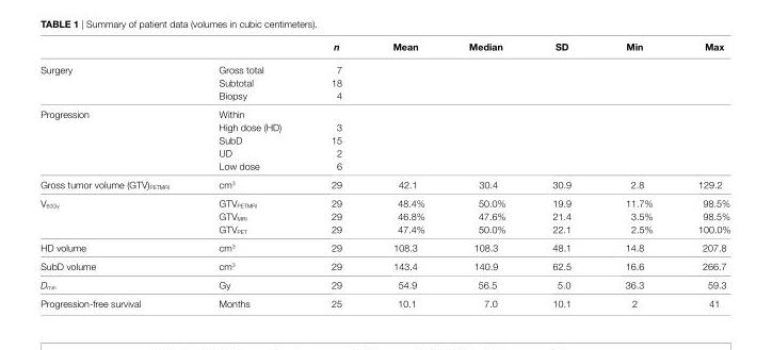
<table><thead><tr><td></td><td></td><td>n</td><td>Mean</td><td>Median</td><td>sD</td><td>Min</td><td>Max</td></tr></thead><tbody><tr><td rowspan="3">Surgery</td><td>Gross total</td><td>7</td><td></td><td></td><td></td><td></td><td></td></tr><tr><td>Subtotal</td><td>18</td><td></td><td></td><td></td><td></td><td></td></tr><tr><td>Biopsy</td><td>4</td><td></td><td></td><td></td><td></td><td></td></tr><tr><td rowspan="5">Progression</td><td>Within</td><td></td><td></td><td></td><td></td><td></td><td></td></tr><tr><td>High dose (HD)</td><td>3</td><td></td><td></td><td></td><td></td><td></td></tr><tr><td>SubD</td><td>15</td><td></td><td></td><td></td><td></td><td></td></tr><tr><td>UD</td><td>2</td><td></td><td></td><td></td><td></td><td></td></tr><tr><td>Low dose</td><td>6</td><td></td><td></td><td></td><td></td><td></td></tr><tr><td>Gross tumor volume (GTV)<sub>PETMRI</sub></td><td>cm<sup>3</sup></td><td>29</td><td>42.1</td><td>30.4</td><td>30.9</td><td>2.8</td><td>129.2</td></tr><tr><td rowspan="3">V<sub>60Gy</sub></td><td>GTV<sub>PETMRI</sub></td><td>29</td><td>48.4%</td><td>50.0%</td><td>19.9</td><td>11.7%</td><td>98.5%</td></tr><tr><td>GTV<sub>MRI</sub></td><td>29</td><td>46.8%</td><td>47.6%</td><td>21.4</td><td>3.5%</td><td>98.5%</td></tr><tr><td>GTV<sub>PET</sub></td><td>29</td><td>47.4%</td><td>50.0%</td><td>22.1</td><td>2.5%</td><td>100.0%</td></tr><tr><td>HD volume</td><td>cm<sup>3</sup></td><td>29</td><td>108.3</td><td>108.3</td><td>48.1</td><td>14.8</td><td>207.8</td></tr><tr><td>SubD volume</td><td>cm<sup>3</sup></td><td>29</td><td>143.4</td><td>140.9</td><td>62.5</td><td>16.6</td><td>266.7</td></tr><tr><td>D<sub>min</sub></td><td>Gy</td><td>29</td><td>54.9</td><td>56.5</td><td>5.0</td><td>36.3</td><td>59.3</td></tr><tr><td>Progression-free survival</td><td>Months</td><td>25</td><td>10.1</td><td>7.0</td><td>10.1</td><td>2</td><td>41</td></tr></tbody></table>